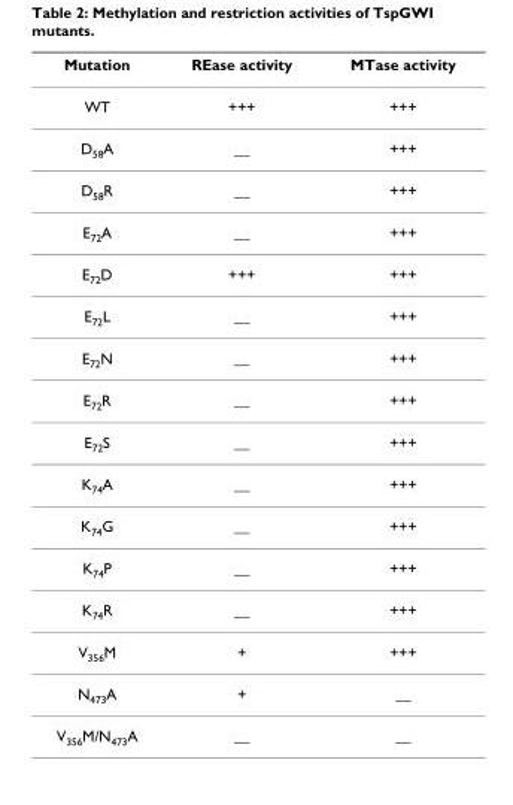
<table><thead><tr><td>Mutation</td><td>REase activity</td><td>MTase activity</td></tr></thead><tbody><tr><td>WT</td><td>+++</td><td>+++</td></tr><tr><td>D<sub>58</sub>A</td><td>__</td><td>+++</td></tr><tr><td>D<sub>58</sub>R</td><td>__</td><td>+++</td></tr><tr><td>E<sub>72</sub>A</td><td>__</td><td>+++</td></tr><tr><td>E<sub>72</sub>D</td><td>+++</td><td>+++</td></tr><tr><td>E<sub>72</sub>L</td><td>__</td><td>+++</td></tr><tr><td>E<sub>72</sub>N</td><td>__</td><td>+++</td></tr><tr><td>E<sub>72</sub>R</td><td>__</td><td>+++</td></tr><tr><td>E<sub>72</sub>S</td><td>__</td><td>+++</td></tr><tr><td>K<sub>74</sub>A</td><td>__</td><td>+++</td></tr><tr><td>K<sub>74</sub>G</td><td>__</td><td>+++</td></tr><tr><td>K<sub>74</sub>P</td><td>__</td><td>+++</td></tr><tr><td>K<sub>74</sub>R</td><td>__</td><td>+++</td></tr><tr><td>V<sub>356</sub>M</td><td>+</td><td>+++</td></tr><tr><td>N<sub>473</sub>A</td><td>+</td><td>__</td></tr><tr><td>V356M/N473A</td><td>__</td><td>__</td></tr></tbody></table>